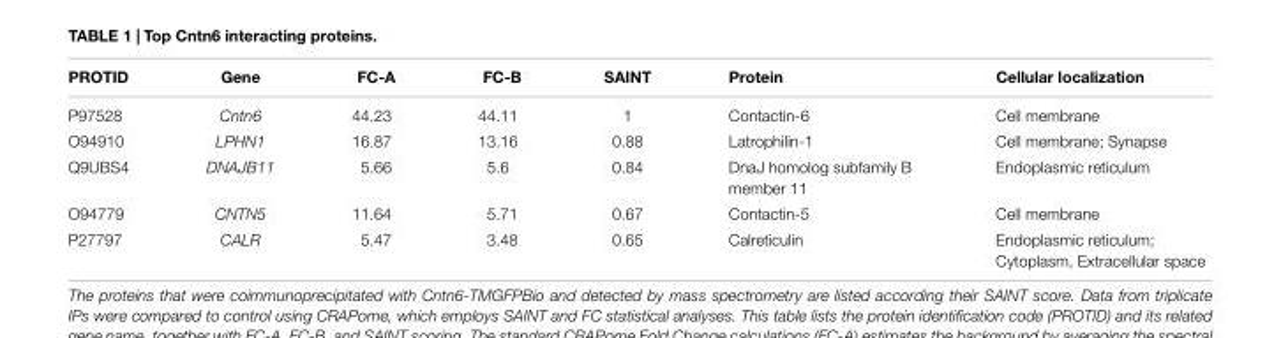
<table><thead><tr><td>PROTID</td><td>Gene</td><td>FC-A</td><td>FC-B</td><td>SAINT</td><td>Protein</td><td>Cellular localization</td></tr></thead><tbody><tr><td>P97528</td><td>Cntn6</td><td>44.23</td><td>44.11</td><td>1</td><td>Contactin-6</td><td>Cell membrane</td></tr><tr><td>O94910</td><td>LPHN1</td><td>16.87</td><td>13.16</td><td>0.88</td><td>Latrophilin-1</td><td>Cell membrane; Synapse</td></tr><tr><td>Q9UBS4</td><td>DNAJB11</td><td>5.66</td><td>5.6</td><td>0.84</td><td>DnaJ homolog subfamily B member 11</td><td>Endoplasmic reticulum</td></tr><tr><td>O94779</td><td>CNTN5</td><td>11.64</td><td>5.71</td><td>0.67</td><td>Contactin-5</td><td>Cell membrane</td></tr><tr><td>P27797</td><td>CALR</td><td>5.47</td><td>3.48</td><td>0.65</td><td>Calreticulin</td><td>Endoplasmic reticulum; Cytoplasm, Extracellular space</td></tr></tbody></table>